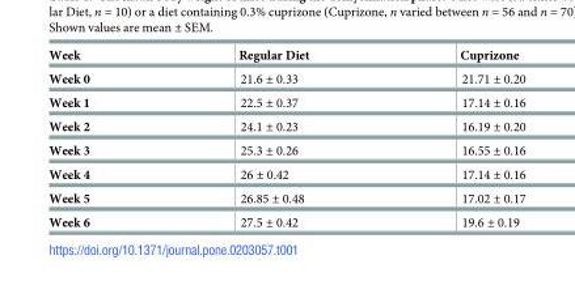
<table><thead><tr><td>Week</td><td>Regular Diet</td><td>Cuprizone</td></tr></thead><tbody><tr><td>Week 0</td><td>21.6 ± 0.33</td><td>21.71 ± 0.20</td></tr><tr><td>Week 1</td><td>22.5 ± 0.37</td><td>17.14 ± 0.16</td></tr><tr><td>Week 2</td><td>24.1 ± 0.23</td><td>16.19 ± 0.20</td></tr><tr><td>Week 3</td><td>25.3 ± 0.26</td><td>16.55 ± 0.16</td></tr><tr><td>Week 4</td><td>26 ± 0.42</td><td>17.14 ± 0.16</td></tr><tr><td>Week 5</td><td>26.85 ± 0.48</td><td>17.02 ± 0.17</td></tr><tr><td>Week 6</td><td>27.5 ± 0.42</td><td>19.6 ± 0.19</td></tr></tbody></table>